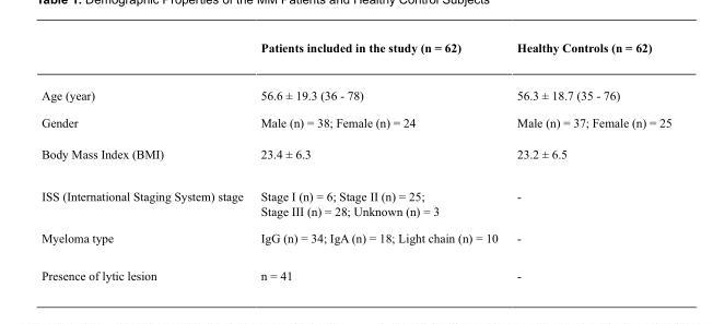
<table><thead><tr><td></td><td>Patients included in the study (n = 62)</td><td>Healthy Controls (n = 62)</td></tr></thead><tbody><tr><td>Age (year)</td><td>56.6 ± 19.3 (36 - 78)</td><td>56.3 ± 18.7 (35 - 76)</td></tr><tr><td>Gender</td><td>Male (n) = 38; Female (n) = 24</td><td>Male (n) = 37; Female (n) = 25</td></tr><tr><td>Body Mass Index (BMI)</td><td>23.4 ± 6.3</td><td>23.2 ± 6.5</td></tr><tr><td>ISS (International Staging System) stage</td><td>Stage I (n) = 6; Stage II (n) = 25; Stage III (n) = 28; Unknown (n) = 3</td><td>-</td></tr><tr><td>Myeloma type</td><td>IgG (n) = 34; IgA (n) = 18; Light chain (n) = 10</td><td>-</td></tr><tr><td>Presence of lytic lesion</td><td>n = 41</td><td>-</td></tr></tbody></table>